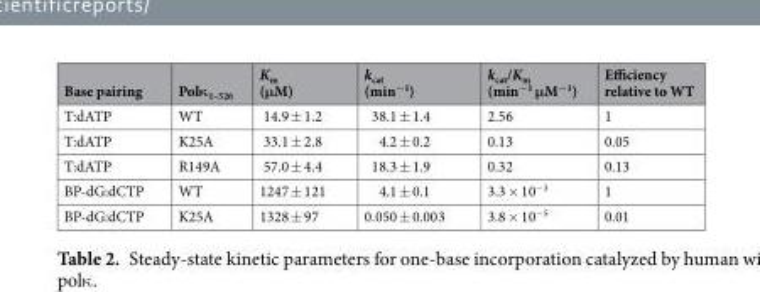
<table><thead><tr><td>Base pairing</td><td>Polκ<sub>1–526</sub></td><td>K<sub>m</sub> (μM)</td><td>k<sub>cat</sub> (min<sup>−1</sup>)</td><td>k<sub>cat</sub>/K<sub>m</sub> (min<sup>−1</sup> μM<sup>−1</sup>)</td><td>Efficiency relative to WT</td></tr></thead><tbody><tr><td>T:dATP</td><td>WT</td><td>14.9 ± 1.2</td><td>38.1 ± 1.4</td><td>2.56</td><td>1</td></tr><tr><td>T:dATP</td><td>K25A</td><td>33.1 ± 2.8</td><td>4.2 ± 0.2</td><td>0.13</td><td>0.05</td></tr><tr><td>T:dATP</td><td>R149A</td><td>57.0 ± 4.4</td><td>18.3 ± 1.9</td><td>0.32</td><td>0.13</td></tr><tr><td>BP-dG:dCTP</td><td>WT</td><td>1247 ± 121</td><td>4.1 ± 0.1</td><td>3.3 × 10<sup>−3</sup></td><td>1</td></tr><tr><td>BP-dG:dCTP</td><td>K25A</td><td>1328 ± 97</td><td>0.050 ± 0.003</td><td>3.8 × 10<sup>−5</sup></td><td>0.01</td></tr></tbody></table>